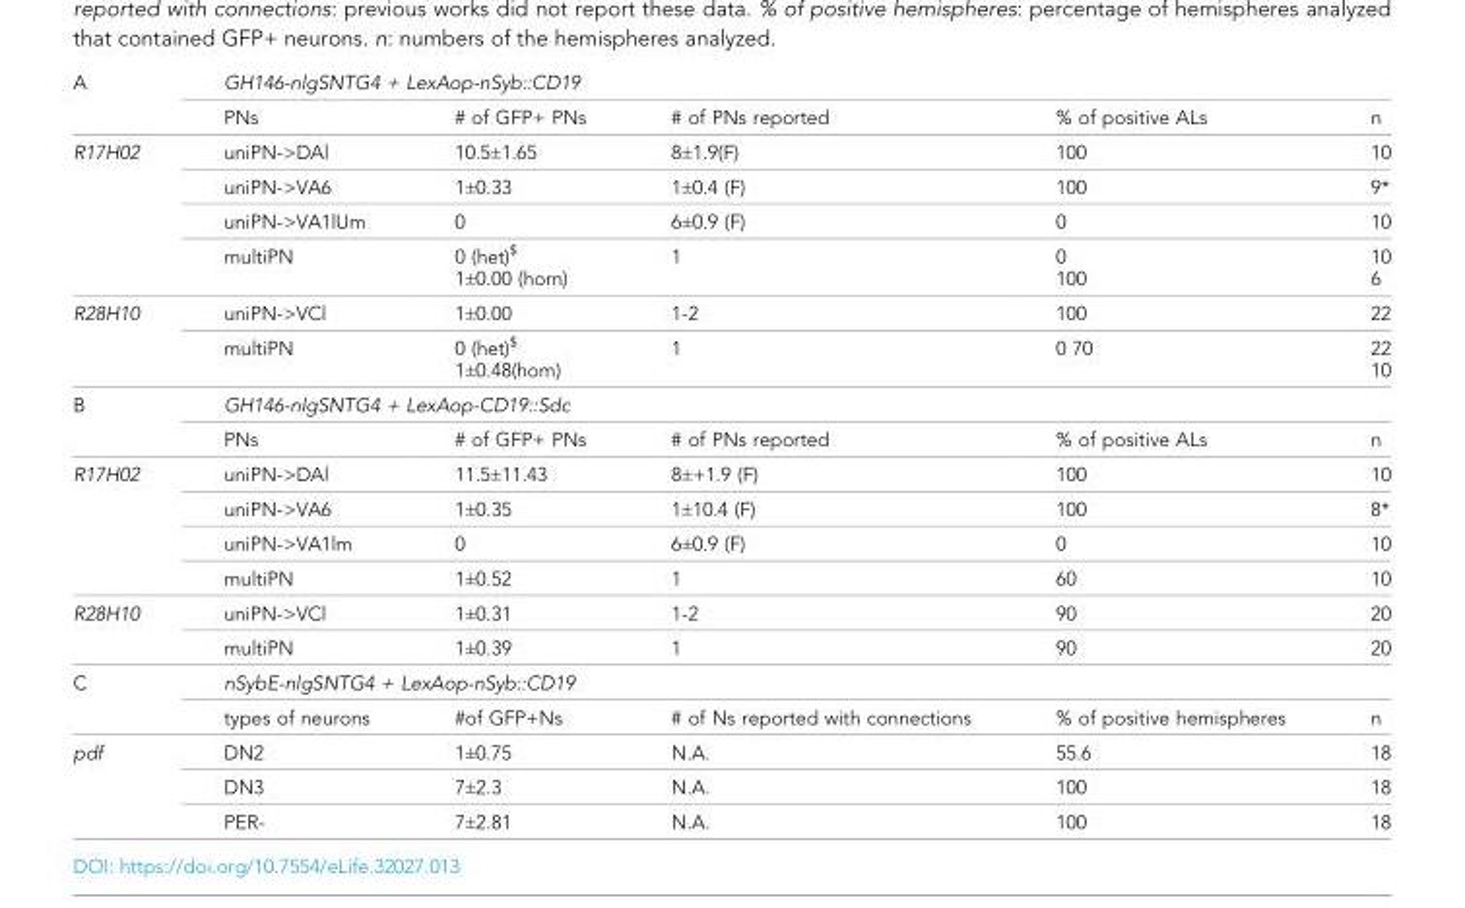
<table><tbody><tr><td rowspan="2">A</td><td colspan="5">GH146-nlgSNTG4 + LexAop-nSyb::CD19</td></tr><tr><td>PNs</td><td># of GFP+ PNs</td><td># of PNs reported</td><td>% of positive ALs</td><td>n</td></tr><tr><td rowspan="4">R17H02</td><td>uniPN-&gt;DAl</td><td>10.5±1.65</td><td>8±1.9(F)</td><td>100</td><td>10</td></tr><tr><td>uniPN-&gt;VA6</td><td>1±0.33</td><td>1±0.4 (F)</td><td>100</td><td>9*</td></tr><tr><td>uniPN-&gt;VA1lUm</td><td>0</td><td>6±0.9 (F)</td><td>0</td><td>10</td></tr><tr><td>multiPN</td><td>0 (het)<sup>$</sup> 1±0.00 (horn)</td><td>1</td><td>0 100</td><td>10 6</td></tr><tr><td rowspan="2">R28H10</td><td>uniPN-&gt;VCl</td><td>1±0.00</td><td>1-2</td><td>100</td><td>22</td></tr><tr><td>multiPN</td><td>0 (het)<sup>$</sup> 1±0.48(hom)</td><td>1</td><td>0 70</td><td>22 10</td></tr><tr><td rowspan="2">B</td><td colspan="5">GH146-nlgSNTG4 + LexAop-CD19::Sdc</td></tr><tr><td>PNs</td><td># of GFP+ PNs</td><td># of PNs reported</td><td>% of positive ALs</td><td>n</td></tr><tr><td rowspan="4">R17H02</td><td>uniPN-&gt;DAl</td><td>11.5±11.43</td><td>8±+1.9 (F)</td><td>100</td><td>10</td></tr><tr><td>uniPN-&gt;VA6</td><td>1±0.35</td><td>1±10.4 (F)</td><td>100</td><td>8*</td></tr><tr><td>uniPN-&gt;VA1lm</td><td>0</td><td>6±0.9 (F)</td><td>0</td><td>10</td></tr><tr><td>multiPN</td><td>1±0.52</td><td>1</td><td>60</td><td>10</td></tr><tr><td rowspan="2">R28H10</td><td>uniPN-&gt;VCl</td><td>1±0.31</td><td>1-2</td><td>90</td><td>20</td></tr><tr><td>multiPN</td><td>1±0.39</td><td>1</td><td>90</td><td>20</td></tr><tr><td rowspan="2">C</td><td colspan="5">nSybE-nlgSNTG4 + LexAop-nSyb::CD19</td></tr><tr><td>types of neurons</td><td>#of GFP+Ns</td><td># of Ns reported with connections</td><td>% of positive hemispheres</td><td>n</td></tr><tr><td rowspan="3">pdf</td><td>DN2</td><td>1±0.75</td><td>N.A.</td><td>55.6</td><td>18</td></tr><tr><td>DN3</td><td>7±2.3</td><td>N.A.</td><td>100</td><td>18</td></tr><tr><td>PER-</td><td>7±2.81</td><td>N.A.</td><td>100</td><td>18</td></tr></tbody></table>